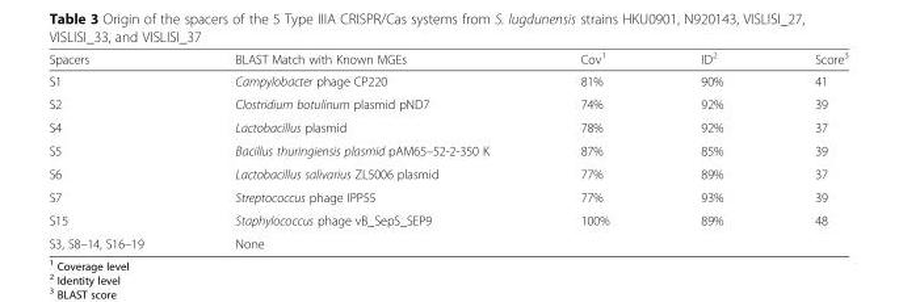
<table><thead><tr><td>Spacers</td><td>BLAST Match with Known MGEs</td><td>Cov<sup>1</sup></td><td>ID<sup>2</sup></td><td>Score<sup>3</sup></td></tr></thead><tbody><tr><td>S1</td><td>Campylobacter phage CP220</td><td>81%</td><td>90%</td><td>41</td></tr><tr><td>S2</td><td>Clostridium botulinum plasmid pND7</td><td>74%</td><td>92%</td><td>39</td></tr><tr><td>S4</td><td>Lactobacillus plasmid</td><td>78%</td><td>92%</td><td>37</td></tr><tr><td>S5</td><td>Bacillus thuringiensis plasmid pAM65–52-2-350 K</td><td>87%</td><td>85%</td><td>39</td></tr><tr><td>S6</td><td>Lactobacillus salivarius ZL5006 plasmid</td><td>77%</td><td>89%</td><td>37</td></tr><tr><td>S7</td><td>Streptococcus phage IPP55</td><td>77%</td><td>93%</td><td>39</td></tr><tr><td>S15</td><td>Staphylococcus phage vB_SepS_SEP9</td><td>100%</td><td>89%</td><td>48</td></tr><tr><td>S3, S8–14, S16–19</td><td>None</td><td></td><td></td><td></td></tr></tbody></table>